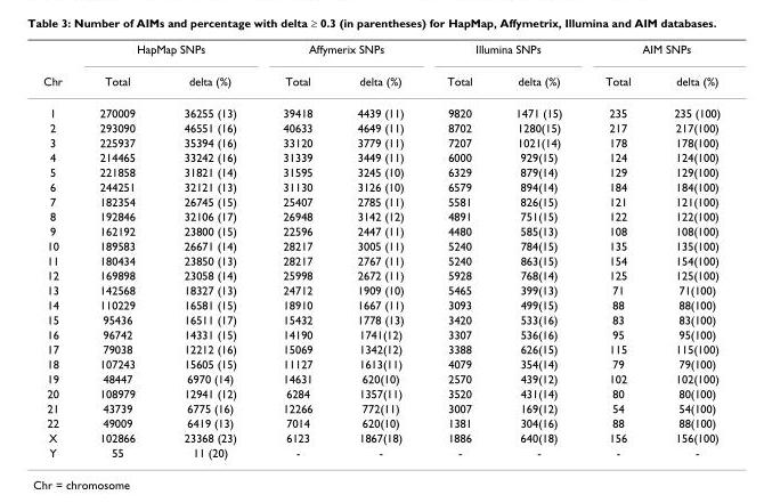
<table><thead><tr><td rowspan="2">Chr</td><td colspan="2">HapMap SNPs</td><td colspan="2">Affymerix SNPs</td><td colspan="2">Illumina SNPs</td><td colspan="2">AIM SNPs</td></tr><tr><td>Total</td><td>delta (%)</td><td>Total</td><td>delta (%)</td><td>Total</td><td>delta (%)</td><td>Total</td><td>delta (%)</td></tr></thead><tbody><tr><td>1</td><td>270009</td><td>36255 (13)</td><td>39418</td><td>4439 (11)</td><td>9820</td><td>1471 (15)</td><td>235</td><td>235 (100)</td></tr><tr><td>2</td><td>293090</td><td>46551 (16)</td><td>40633</td><td>4649 (11)</td><td>8702</td><td>1280(15)</td><td>217</td><td>217(100)</td></tr><tr><td>3</td><td>225937</td><td>35394 (16)</td><td>33120</td><td>3779 (11)</td><td>7207</td><td>1021(14)</td><td>178</td><td>178(100)</td></tr><tr><td>4</td><td>214465</td><td>33242 (16)</td><td>31339</td><td>3449 (11)</td><td>6000</td><td>929(15)</td><td>124</td><td>124(100)</td></tr><tr><td>5</td><td>221858</td><td>31821 (14)</td><td>31595</td><td>3245 (10)</td><td>6329</td><td>879(14)</td><td>129</td><td>129(100)</td></tr><tr><td>6</td><td>244251</td><td>32121 (13)</td><td>31130</td><td>3126 (10)</td><td>6579</td><td>894(14)</td><td>184</td><td>184(100)</td></tr><tr><td>7</td><td>182354</td><td>26745 (15)</td><td>25407</td><td>2785 (11)</td><td>5581</td><td>826(15)</td><td>121</td><td>121(100)</td></tr><tr><td>8</td><td>192846</td><td>32106 (17)</td><td>26948</td><td>3142 (12)</td><td>4891</td><td>751(15)</td><td>122</td><td>122(100)</td></tr><tr><td>9</td><td>162192</td><td>23800 (15)</td><td>22596</td><td>2447 (11)</td><td>4480</td><td>585(13)</td><td>108</td><td>108(100)</td></tr><tr><td>10</td><td>189583</td><td>26671 (14)</td><td>28217</td><td>3005 (11)</td><td>5240</td><td>784(15)</td><td>135</td><td>135(100)</td></tr><tr><td>11</td><td>180434</td><td>23850 (13)</td><td>28217</td><td>2767 (11)</td><td>5240</td><td>863(15)</td><td>154</td><td>154(100)</td></tr><tr><td>12</td><td>169898</td><td>23058 (14)</td><td>25998</td><td>2672 (11)</td><td>5928</td><td>768(14)</td><td>125</td><td>125(100)</td></tr><tr><td>13</td><td>142568</td><td>18327 (13)</td><td>24712</td><td>1909 (10)</td><td>5465</td><td>399(13)</td><td>71</td><td>71(100)</td></tr><tr><td>14</td><td>110229</td><td>16581 (15)</td><td>18910</td><td>1667 (11)</td><td>3093</td><td>499(15)</td><td>88</td><td>88(100)</td></tr><tr><td>15</td><td>95436</td><td>16511 (17)</td><td>15432</td><td>1778 (13)</td><td>3420</td><td>533(16)</td><td>83</td><td>83(100)</td></tr><tr><td>16</td><td>96742</td><td>14331 (15)</td><td>14190</td><td>1741(12)</td><td>3307</td><td>536(16)</td><td>95</td><td>95(100)</td></tr><tr><td>17</td><td>79038</td><td>12212 (16)</td><td>15069</td><td>1342(12)</td><td>3388</td><td>626(15)</td><td>115</td><td>115(100)</td></tr><tr><td>18</td><td>107243</td><td>15605 (15)</td><td>11127</td><td>1613(11)</td><td>4079</td><td>354(14)</td><td>79</td><td>79(100)</td></tr><tr><td>19</td><td>48447</td><td>6970 (14)</td><td>14631</td><td>620(10)</td><td>2570</td><td>439(12)</td><td>102</td><td>102(100)</td></tr><tr><td>20</td><td>108979</td><td>12941 (12)</td><td>6284</td><td>1357(11)</td><td>3520</td><td>431(14)</td><td>80</td><td>80(100)</td></tr><tr><td>21</td><td>43739</td><td>6775 (16)</td><td>12266</td><td>772(11)</td><td>3007</td><td>169(12)</td><td>54</td><td>54(100)</td></tr><tr><td>22</td><td>49009</td><td>6419 (13)</td><td>7014</td><td>620(10)</td><td>1381</td><td>304(16)</td><td>88</td><td>88(100)</td></tr><tr><td>X</td><td>102866</td><td>23368 (23)</td><td>6123</td><td>1867(18)</td><td>1886</td><td>640(18)</td><td>156</td><td>156(100)</td></tr><tr><td>Y</td><td>55</td><td>11 (20)</td><td>-</td><td>-</td><td>-</td><td>-</td><td>-</td><td>-</td></tr></tbody></table>